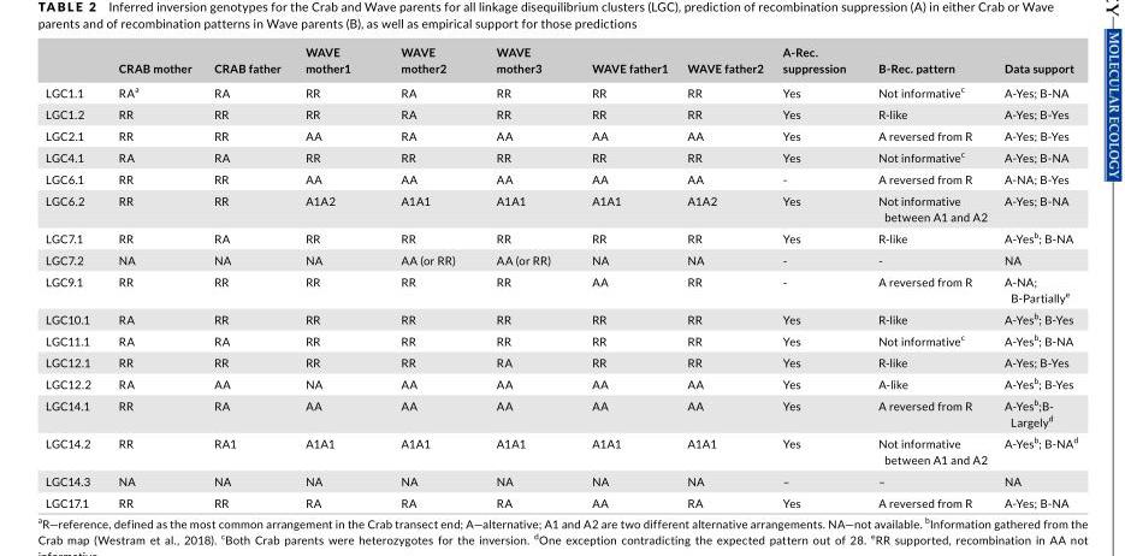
<table><thead><tr><td></td><td>CRAB mother</td><td>CRAB father</td><td>WAVE mother1</td><td>WAVE mother2</td><td>WAVE mother3</td><td>WAVE father1</td><td>WAVE father2</td><td>A‐Rec. suppression</td><td>B‐Rec. pattern</td><td>Data support</td></tr></thead><tbody><tr><td>LGC1.1</td><td>RA<sup>a</sup></td><td>RA</td><td>RR</td><td>RA</td><td>RR</td><td>RR</td><td>RR</td><td>Yes</td><td>Not informative<sup>c</sup></td><td>A‐Yes; B‐NA</td></tr><tr><td>LGC1.2</td><td>RR</td><td>RR</td><td>RR</td><td>RA</td><td>RR</td><td>RR</td><td>RR</td><td>Yes</td><td>R‐like</td><td>A‐Yes; B‐Yes</td></tr><tr><td>LGC2.1</td><td>RR</td><td>RR</td><td>AA</td><td>RA</td><td>AA</td><td>AA</td><td>AA</td><td>Yes</td><td>A reversed from R</td><td>A‐Yes; B‐Yes</td></tr><tr><td>LGC4.1</td><td>RA</td><td>RA</td><td>RR</td><td>RR</td><td>RR</td><td>RR</td><td>RR</td><td>Yes</td><td>Not informative<sup>c</sup></td><td>A‐Yes; B‐NA</td></tr><tr><td>LGC6.1</td><td>RR</td><td>RR</td><td>AA</td><td>AA</td><td>AA</td><td>AA</td><td>AA</td><td>‐</td><td>A reversed from R</td><td>A‐NA; B‐Yes</td></tr><tr><td>LGC6.2</td><td>RR</td><td>RR</td><td>A1A2</td><td>A1A1</td><td>A1A1</td><td>A1A1</td><td>A1A2</td><td>Yes</td><td>Not informative between A1 and A2</td><td>A‐Yes; B‐NA</td></tr><tr><td>LGC7.1</td><td>RR</td><td>RA</td><td>RR</td><td>RR</td><td>RR</td><td>RR</td><td>RR</td><td>Yes</td><td>R‐like</td><td>A‐Yes<sup>b</sup>; B‐NA</td></tr><tr><td>LGC7.2</td><td>NA</td><td>NA</td><td>NA</td><td>AA (or RR)</td><td>AA (or RR)</td><td>NA</td><td>NA</td><td>‐</td><td>‐</td><td>NA</td></tr><tr><td>LGC9.1</td><td>RR</td><td>RR</td><td>RR</td><td>RR</td><td>RR</td><td>AA</td><td>RR</td><td>‐</td><td>A reversed from R</td><td>A‐NA; B‐Partially<sup>e</sup></td></tr><tr><td>LGC10.1</td><td>RA</td><td>RR</td><td>RR</td><td>RR</td><td>RR</td><td>RR</td><td>RR</td><td>Yes</td><td>R‐like</td><td>A‐Yes<sup>b</sup>; B‐Yes</td></tr><tr><td>LGC11.1</td><td>RA</td><td>RA</td><td>RR</td><td>RR</td><td>RR</td><td>RR</td><td>RR</td><td>Yes</td><td>Not informative<sup>c</sup></td><td>A‐Yes<sup>b</sup>; B‐NA</td></tr><tr><td>LGC12.1</td><td>RR</td><td>RR</td><td>RR</td><td>RR</td><td>RA</td><td>RR</td><td>RR</td><td>Yes</td><td>R‐like</td><td>A‐Yes; B‐Yes</td></tr><tr><td>LGC12.2</td><td>RA</td><td>AA</td><td>NA</td><td>AA</td><td>AA</td><td>AA</td><td>AA</td><td>Yes</td><td>A‐like</td><td>A‐Yes<sup>b</sup>; B‐Yes</td></tr><tr><td>LGC14.1</td><td>RR</td><td>RA</td><td>AA</td><td>AA</td><td>AA</td><td>AA</td><td>AA</td><td>Yes</td><td>A reversed from R</td><td>A‐Yes<sup>b</sup>;B‐ Largely<sup>d</sup></td></tr><tr><td>LGC14.2</td><td>RR</td><td>RA1</td><td>A1A1</td><td>A1A1</td><td>A1A1</td><td>A1A1</td><td>A1A1</td><td>Yes</td><td>Not informative between A1 and A2</td><td>A‐Yes<sup>b</sup>; B‐NA<sup>d</sup></td></tr><tr><td>LGC14.3</td><td>NA</td><td>NA</td><td>NA</td><td>NA</td><td>NA</td><td>NA</td><td>NA</td><td>–</td><td>–</td><td>NA</td></tr><tr><td>LGC17.1</td><td>RR</td><td>RR</td><td>RA</td><td>RA</td><td>RA</td><td>AA</td><td>RA</td><td>Yes</td><td>A reversed from R</td><td>A‐Yes; B‐NA</td></tr></tbody></table>